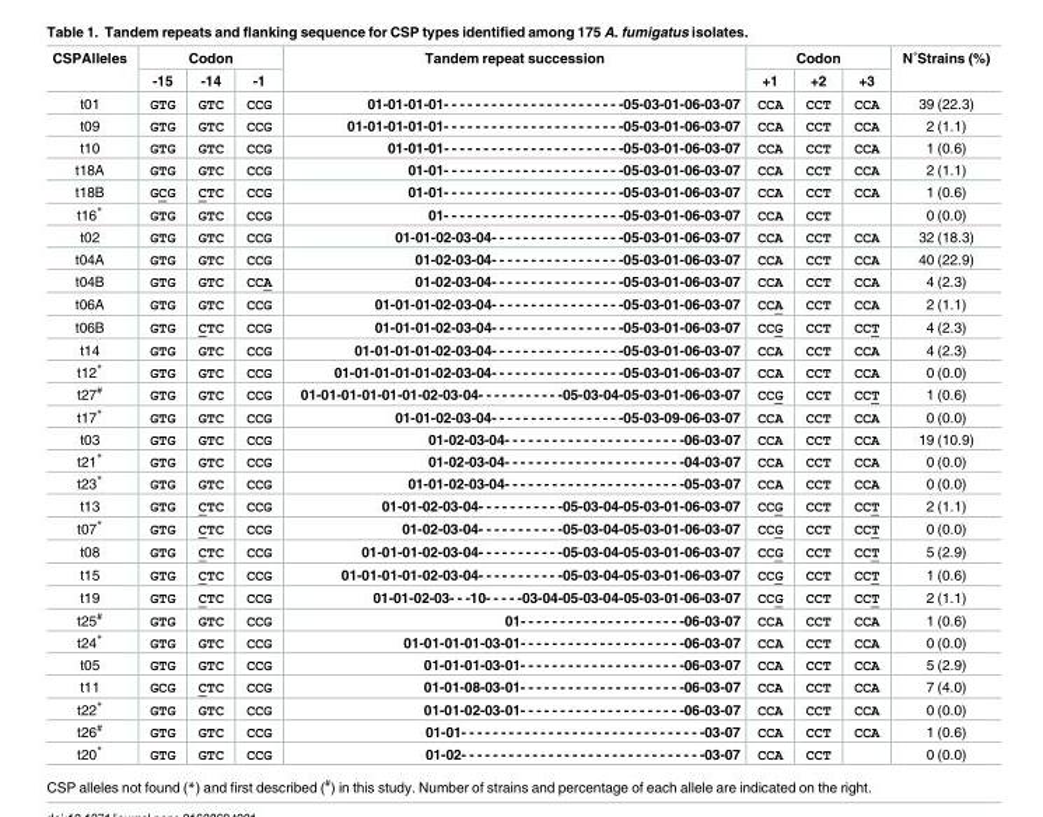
<table><thead><tr><td rowspan="2">CSPAlleles</td><td colspan="3">Codon</td><td rowspan="2">Tandem repeat succession</td><td colspan="3">Codon</td><td rowspan="2">N˚Strains (%)</td></tr><tr><td>-15</td><td>-14</td><td>-1</td><td>+1</td><td>+2</td><td>+3</td></tr></thead><tbody><tr><td>t01</td><td>GTG</td><td>GTC</td><td>CCG</td><td>01-01-01-01- - - - - - - - - - - - - - - - - - - - - - -05-03-01-06-03-07</td><td>CCA</td><td>CCT</td><td>CCA</td><td>39 (22.3)</td></tr><tr><td>t09</td><td>GTG</td><td>GTC</td><td>CCG</td><td>01-01-01-01-01- - - - - - - - - - - - - - - - - - - - - - -05-03-01-06-03-07</td><td>CCA</td><td>CCT</td><td>CCA</td><td>2 (1.1)</td></tr><tr><td>t10</td><td>GTG</td><td>GTC</td><td>CCG</td><td>01-01-01- - - - - - - - - - - - - - - - - - - - - - -05-03-01-06-03-07</td><td>CCA</td><td>CCT</td><td>CCA</td><td>1 (0.6)</td></tr><tr><td>t18A</td><td>GTG</td><td>GTC</td><td>CCG</td><td>01-01- - - - - - - - - - - - - - - - - - - - - - -05-03-01-06-03-07</td><td>CCA</td><td>CCT</td><td>CCA</td><td>2 (1.1)</td></tr><tr><td>t18B</td><td>GCG</td><td>CTC</td><td>CCG</td><td>01-01- - - - - - - - - - - - - - - - - - - - - - -05-03-01-06-03-07</td><td>CCA</td><td>CCT</td><td>CCA</td><td>1 (0.6)</td></tr><tr><td>t16*</td><td>GTG</td><td>GTC</td><td>CCG</td><td>01- - - - - - - - - - - - - - - - - - - - - - -05-03-01-06-03-07</td><td>CCA</td><td>CCT</td><td></td><td>0 (0.0)</td></tr><tr><td>t02</td><td>GTG</td><td>GTC</td><td>CCG</td><td>01-01-02-03-04- - - - - - - - - - - - - - - - -05-03-01-06-03-07</td><td>CCA</td><td>CCT</td><td>CCA</td><td>32 (18.3)</td></tr><tr><td>t04A</td><td>GTG</td><td>GTC</td><td>CCG</td><td>01-02-03-04- - - - - - - - - - - - - - - - -05-03-01-06-03-07</td><td>CCA</td><td>CCT</td><td>CCA</td><td>40 (22.9)</td></tr><tr><td>t04B</td><td>GTG</td><td>GTC</td><td>CCA</td><td>01-02-03-04- - - - - - - - - - - - - - - - -05-03-01-06-03-07</td><td>CCA</td><td>CCT</td><td>CCA</td><td>4 (2.3)</td></tr><tr><td>t06A</td><td>GTG</td><td>GTC</td><td>CCG</td><td>01-01-01-02-03-04- - - - - - - - - - - - - - - - -05-03-01-06-03-07</td><td>CCA</td><td>CCT</td><td>CCA</td><td>2 (1.1)</td></tr><tr><td>t06B</td><td>GTG</td><td>CTC</td><td>CCG</td><td>01-01-01-02-03-04- - - - - - - - - - - - - - - - -05-03-01-06-03-07</td><td>CCG</td><td>CCT</td><td>CCT</td><td>4 (2.3)</td></tr><tr><td>t14</td><td>GTG</td><td>GTC</td><td>CCG</td><td>01-01-01-01-02-03-04- - - - - - - - - - - - - - - - -05-03-01-06-03-07</td><td>CCA</td><td>CCT</td><td>CCA</td><td>4 (2.3)</td></tr><tr><td>t12*</td><td>GTG</td><td>GTC</td><td>CCG</td><td>01-01-01-01-01-02-03-04- - - - - - - - - - - - - - - - -05-03-01-06-03-07</td><td>CCA</td><td>CCT</td><td>CCA</td><td>0 (0.0)</td></tr><tr><td>t27<sup>#</sup></td><td>GTG</td><td>GTC</td><td>CCG</td><td>01-01-01-01-01-01-02-03-04- - - - - - - - - - -05-03-04-05-03-01-06-03-07</td><td>CCG</td><td>CCT</td><td>CCT</td><td>1 (0.6)</td></tr><tr><td>t17*</td><td>GTG</td><td>GTC</td><td>CCG</td><td>01-01-02-03-04- - - - - - - - - - - - - - - - -05-03-09-06-03-07</td><td>CCA</td><td>CCT</td><td>CCA</td><td>0 (0.0)</td></tr><tr><td>t03</td><td>GTG</td><td>GTC</td><td>CCG</td><td>01-02-03-04- - - - - - - - - - - - - - - - - - - - - - -06-03-07</td><td>CCA</td><td>CCT</td><td>CCA</td><td>19 (10.9)</td></tr><tr><td>t21*</td><td>GTG</td><td>GTC</td><td>CCG</td><td>01-02-03-04- - - - - - - - - - - - - - - - - - - - - - -04-03-07</td><td>CCA</td><td>CCT</td><td>CCA</td><td>0 (0.0)</td></tr><tr><td>t23*</td><td>GTG</td><td>GTC</td><td>CCG</td><td>01-01-02-03-04- - - - - - - - - - - - - - - - - - - - - - -05-03-07</td><td>CCA</td><td>CCT</td><td>CCA</td><td>0 (0.0)</td></tr><tr><td>t13</td><td>GTG</td><td>CTC</td><td>CCG</td><td>01-01-02-03-04- - - - - - - - - - -05-03-04-05-03-01-06-03-07</td><td>CCG</td><td>CCT</td><td>CCT</td><td>2 (1.1)</td></tr><tr><td>t07*</td><td>GTG</td><td>CTC</td><td>CCG</td><td>01-02-03-04- - - - - - - - - - -05-03-04-05-03-01-06-03-07</td><td>CCG</td><td>CCT</td><td>CCT</td><td>0 (0.0)</td></tr><tr><td>t08</td><td>GTG</td><td>CTC</td><td>CCG</td><td>01-01-01-02-03-04- - - - - - - - - - -05-03-04-05-03-01-06-03-07</td><td>CCG</td><td>CCT</td><td>CCT</td><td>5 (2.9)</td></tr><tr><td>t15</td><td>GTG</td><td>CTC</td><td>CCG</td><td>01-01-01-01-02-03-04- - - - - - - - - - -05-03-04-05-03-01-06-03-07</td><td>CCG</td><td>CCT</td><td>CCT</td><td>1 (0.6)</td></tr><tr><td>t19</td><td>GTG</td><td>CTC</td><td>CCG</td><td>01-01-02-03- - -10- - - - -03-04-05-03-04-05-03-01-06-03-07</td><td>CCG</td><td>CCT</td><td>CCT</td><td>2 (1.1)</td></tr><tr><td>t25<sup>#</sup></td><td>GTG</td><td>GTC</td><td>CCG</td><td>01- - - - - - - - - - - - - - - - - - - - -06-03-07</td><td>CCA</td><td>CCT</td><td>CCA</td><td>1 (0.6)</td></tr><tr><td>t24*</td><td>GTG</td><td>GTC</td><td>CCG</td><td>01-01-01-01-03-01- - - - - - - - - - - - - - - - - - - - -06-03-07</td><td>CCA</td><td>CCT</td><td>CCA</td><td>0 (0.0)</td></tr><tr><td>t05</td><td>GTG</td><td>GTC</td><td>CCG</td><td>01-01-01-03-01- - - - - - - - - - - - - - - - - - - - -06-03-07</td><td>CCA</td><td>CCT</td><td>CCA</td><td>5 (2.9)</td></tr><tr><td>t11</td><td>GCG</td><td>CTC</td><td>CCG</td><td>01-01-08-03-01- - - - - - - - - - - - - - - - - - - - -06-03-07</td><td>CCA</td><td>CCT</td><td>CCA</td><td>7 (4.0)</td></tr><tr><td>t22*</td><td>GTG</td><td>GTC</td><td>CCG</td><td>01-01-02-03-01- - - - - - - - - - - - - - - - - - - - -06-03-07</td><td>CCA</td><td>CCT</td><td>CCA</td><td>0 (0.0)</td></tr><tr><td>t26<sup>#</sup></td><td>GTG</td><td>GTC</td><td>CCG</td><td>01-01- - - - - - - - - - - - - - - - - - - - - - - - - - - - - - -03-07</td><td>CCA</td><td>CCT</td><td>CCA</td><td>1 (0.6)</td></tr><tr><td>t20*</td><td>GTG</td><td>GTC</td><td>CCG</td><td>01-02- - - - - - - - - - - - - - - - - - - - - - - - - - - - - - -03-07</td><td>CCA</td><td>CCT</td><td></td><td>0 (0.0)</td></tr></tbody></table>